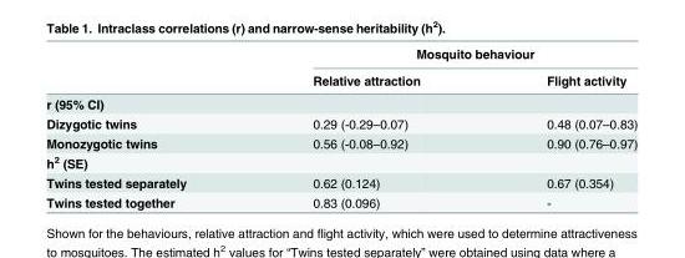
<table><thead><tr><td rowspan="2"></td><td colspan="2">Mosquito behaviour</td></tr><tr><td>Relative attraction</td><td>Flight activity</td></tr></thead><tbody><tr><td colspan="3">r (95% CI)</td></tr><tr><td>Dizygotic twins</td><td>0.29 (-0.29–0.07)</td><td>0.48 (0.07–0.83)</td></tr><tr><td>Monozygotic twins</td><td>0.56 (-0.08–0.92)</td><td>0.90 (0.76–0.97)</td></tr><tr><td colspan="3">h<sup>2</sup> (SE)</td></tr><tr><td>Twins tested separately</td><td>0.62 (0.124)</td><td>0.67 (0.354)</td></tr><tr><td>Twins tested together</td><td>0.83 (0.096)</td><td>-</td></tr></tbody></table>